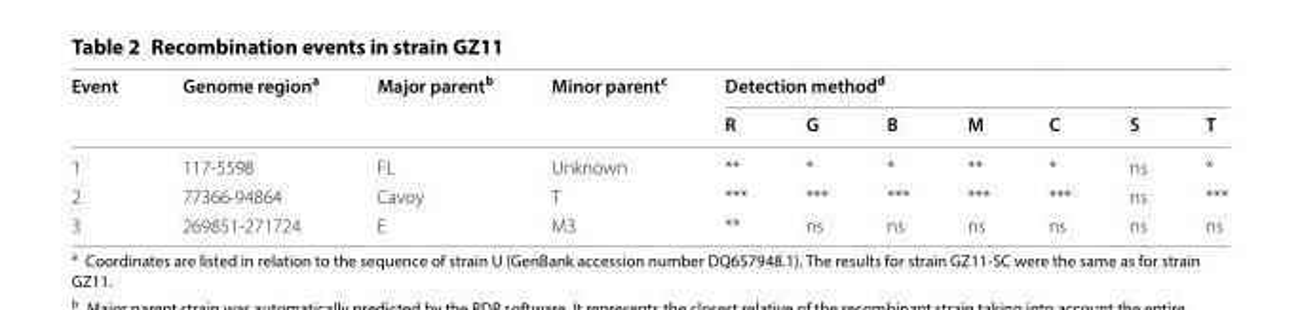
<table><thead><tr><td rowspan="2">Event</td><td rowspan="2">Genome region<sup>a</sup></td><td rowspan="2">Major parent<sup>b</sup></td><td rowspan="2">Minor parent<sup>c</sup></td><td colspan="7">Detection method<sup>d</sup></td></tr><tr><td>R</td><td>G</td><td>B</td><td>M</td><td>C</td><td>S</td><td>T</td></tr></thead><tbody><tr><td>1</td><td>117‑5598</td><td>FL</td><td>Unknown</td><td>**</td><td>*</td><td>*</td><td>**</td><td>*</td><td>ns</td><td>*</td></tr><tr><td>2</td><td>77366‑94864</td><td>Cavoy</td><td>T</td><td>***</td><td>***</td><td>***</td><td>***</td><td>***</td><td>ns</td><td>***</td></tr><tr><td>3</td><td>269851‑271724</td><td>E</td><td>M3</td><td>**</td><td>ns</td><td>ns</td><td>ns</td><td>ns</td><td>ns</td><td>ns</td></tr></tbody></table>